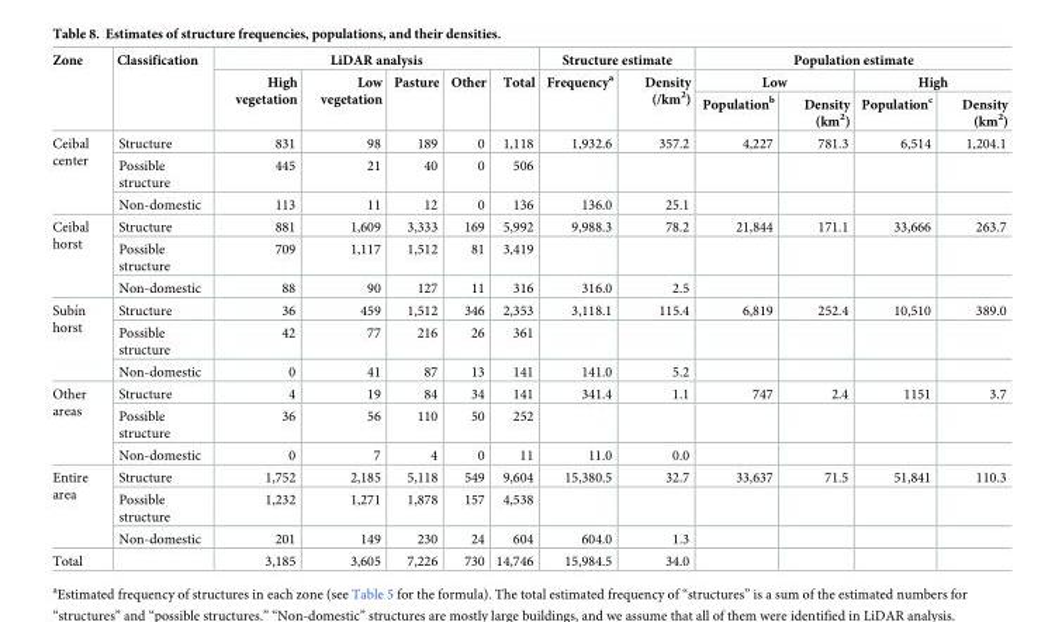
<table><thead><tr><td rowspan="3">Zone</td><td rowspan="3">Classification</td><td colspan="5">LiDAR analysis</td><td colspan="2">Structure estimate</td><td colspan="4">Population estimate</td></tr><tr><td rowspan="2">High vegetation</td><td rowspan="2">Low vegetation</td><td rowspan="2">Pasture</td><td rowspan="2">Other</td><td rowspan="2">Total</td><td rowspan="2">Frequency<sup>a</sup></td><td rowspan="2">Density (/km<sup>2</sup>)</td><td colspan="2">Low</td><td colspan="2">High</td></tr><tr><td>Population<sup>b</sup></td><td>Density (km<sup>2</sup>)</td><td>Population<sup>c</sup></td><td>Density (km<sup>2</sup>)</td></tr></thead><tbody><tr><td rowspan="3">Ceibal center</td><td>Structure</td><td>831</td><td>98</td><td>189</td><td>0</td><td>1,118</td><td>1,932.6</td><td>357.2</td><td>4,227</td><td>781.3</td><td>6,514</td><td>1,204.1</td></tr><tr><td>Possible structure</td><td>445</td><td>21</td><td>40</td><td>0</td><td>506</td><td></td><td></td><td></td><td></td><td></td><td></td></tr><tr><td>Non-domestic</td><td>113</td><td>11</td><td>12</td><td>0</td><td>136</td><td>136.0</td><td>25.1</td><td></td><td></td><td></td><td></td></tr><tr><td rowspan="3">Ceibal horst</td><td>Structure</td><td>881</td><td>1,609</td><td>3,333</td><td>169</td><td>5,992</td><td>9,988.3</td><td>78.2</td><td>21,844</td><td>171.1</td><td>33,666</td><td>263.7</td></tr><tr><td>Possible structure</td><td>709</td><td>1,117</td><td>1,512</td><td>81</td><td>3,419</td><td></td><td></td><td></td><td></td><td></td><td></td></tr><tr><td>Non-domestic</td><td>88</td><td>90</td><td>127</td><td>11</td><td>316</td><td>316.0</td><td>2.5</td><td></td><td></td><td></td><td></td></tr><tr><td rowspan="3">Subı´n horst</td><td>Structure</td><td>36</td><td>459</td><td>1,512</td><td>346</td><td>2,353</td><td>3,118.1</td><td>115.4</td><td>6,819</td><td>252.4</td><td>10,510</td><td>389.0</td></tr><tr><td>Possible structure</td><td>42</td><td>77</td><td>216</td><td>26</td><td>361</td><td></td><td></td><td></td><td></td><td></td><td></td></tr><tr><td>Non-domestic</td><td>0</td><td>41</td><td>87</td><td>13</td><td>141</td><td>141.0</td><td>5.2</td><td></td><td></td><td></td><td></td></tr><tr><td rowspan="3">Other areas</td><td>Structure</td><td>4</td><td>19</td><td>84</td><td>34</td><td>141</td><td>341.4</td><td>1.1</td><td>747</td><td>2.4</td><td>1151</td><td>3.7</td></tr><tr><td>Possible structure</td><td>36</td><td>56</td><td>110</td><td>50</td><td>252</td><td></td><td></td><td></td><td></td><td></td><td></td></tr><tr><td>Non-domestic</td><td>0</td><td>7</td><td>4</td><td>0</td><td>11</td><td>11.0</td><td>0.0</td><td></td><td></td><td></td><td></td></tr><tr><td rowspan="3">Entire area</td><td>Structure</td><td>1,752</td><td>2,185</td><td>5,118</td><td>549</td><td>9,604</td><td>15,380.5</td><td>32.7</td><td>33,637</td><td>71.5</td><td>51,841</td><td>110.3</td></tr><tr><td>Possible structure</td><td>1,232</td><td>1,271</td><td>1,878</td><td>157</td><td>4,538</td><td></td><td></td><td></td><td></td><td></td><td></td></tr><tr><td>Non-domestic</td><td>201</td><td>149</td><td>230</td><td>24</td><td>604</td><td>604.0</td><td>1.3</td><td></td><td></td><td></td><td></td></tr><tr><td>Total</td><td></td><td>3,185</td><td>3,605</td><td>7,226</td><td>730</td><td>14,746</td><td>15,984.5</td><td>34.0</td><td></td><td></td><td></td><td></td></tr></tbody></table>